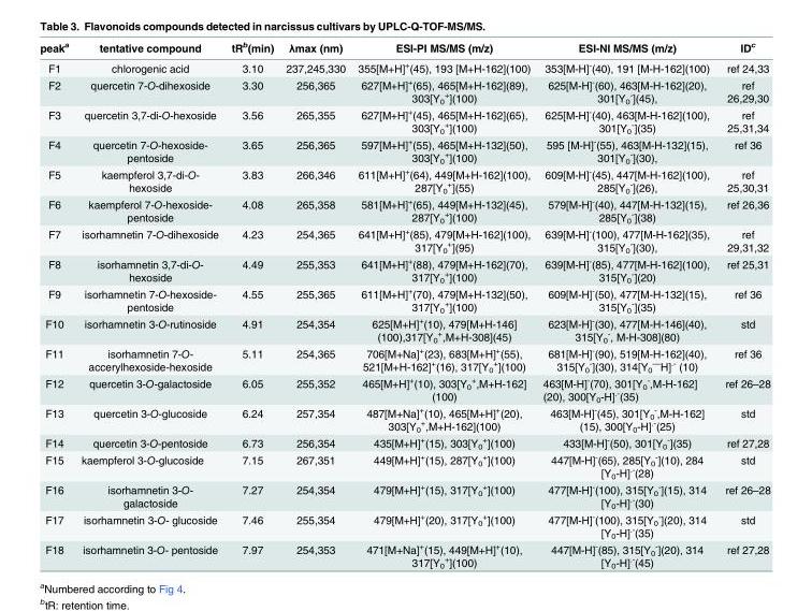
<table><thead><tr><td>peak<sup>a</sup></td><td>tentative compound</td><td>tR<sup>b</sup>(min)</td><td>λmax (nm)</td><td>ESI-PI MS/MS (m/z)</td><td>ESI-NI MS/MS (m/z)</td><td>ID<sup>c</sup></td></tr></thead><tbody><tr><td>F1</td><td>chlorogenic acid</td><td>3.10</td><td>237,245,330</td><td>355[M+H]<sup>+</sup>(45), 193 [M+H-162](100)</td><td>353[M-H]<sup>-</sup>(40), 191 [M-H-162](100)</td><td>ref 24,33</td></tr><tr><td>F2</td><td>quercetin 7-O-dihexoside</td><td>3.30</td><td>256,365</td><td>627[M+H]<sup>+</sup>(65), 465[M+H-162](89), 303[Y<sub>0</sub> <sup>+</sup>](100)</td><td>625[M-H]<sup>-</sup>(60), 463[M-H-162](20), 301[Y<sub>0</sub> <sup>-</sup>](45),</td><td>ref 26,29,30</td></tr><tr><td>F3</td><td>quercetin 3,7-di-O-hexoside</td><td>3.56</td><td>265,355</td><td>627[M+H]<sup>+</sup>(45), 465[M+H-162](65), 303[Y<sub>0</sub> <sup>+</sup>](100)</td><td>625[M-H]<sup>-</sup>(40), 463[M-H-162](100), 301[Y<sub>0</sub> <sup>-</sup>](35)</td><td>ref 25,31,34</td></tr><tr><td>F4</td><td>quercetin 7-O-hexoside- pentoside</td><td>3.65</td><td>256,365</td><td>597[M+H]<sup>+</sup>(55), 465[M+H-132](50), 303[Y<sub>0</sub> <sup>+</sup>](100)</td><td>595 [M-H]<sup>-</sup>(55), 463[M-H-132](15), 301[Y<sub>0</sub> <sup>-</sup>](30),</td><td>ref 36</td></tr><tr><td>F5</td><td>kaempferol 3,7-di-O- hexoside</td><td>3.83</td><td>266,346</td><td>611[M+H]<sup>+</sup>(64), 449[M+H-162](100), 287[Y<sub>0</sub> <sup>+</sup>](55)</td><td>609[M-H]<sup>-</sup>(45), 447[M-H-162](100), 285[Y<sub>0</sub> <sup>-</sup>](26),</td><td>ref 25,30,31</td></tr><tr><td>F6</td><td>kaempferol 7-O-hexoside- pentoside</td><td>4.08</td><td>265,358</td><td>581[M+H]<sup>+</sup>(65), 449[M+H-132](45), 287[Y<sub>0</sub> <sup>+</sup>](100)</td><td>579[M-H]<sup>-</sup>(40), 447[M-H-132](15), 285[Y<sub>0</sub> <sup>-</sup>](38)</td><td>ref 26,36</td></tr><tr><td>F7</td><td>isorhamnetin 7-O-dihexoside</td><td>4.23</td><td>254,365</td><td>641[M+H]<sup>+</sup>(85), 479[M+H-162](100), 317[Y<sub>0</sub> <sup>+</sup>](95)</td><td>639[M-H]<sup>-</sup>(100), 477[M-H-162](35), 315[Y<sub>0</sub> <sup>-</sup>](30),</td><td>ref 29,31,32</td></tr><tr><td>F8</td><td>isorhamnetin 3,7-di-O- hexoside</td><td>4.49</td><td>255,353</td><td>641[M+H]<sup>+</sup>(88), 479[M+H-162](70), 317[Y<sub>0</sub> <sup>+</sup>](100)</td><td>639[M-H]<sup>-</sup>(85), 477[M-H-162](100), 315[Y<sub>0</sub> <sup>-</sup>](20)</td><td>ref 25,31</td></tr><tr><td>F9</td><td>isorhamnetin 7-O-hexoside- pentoside</td><td>4.55</td><td>255,365</td><td>611[M+H]<sup>+</sup>(70), 479[M+H-132](50), 317[Y<sub>0</sub> <sup>+</sup>](100)</td><td>609[M-H]<sup>-</sup>(50), 477[M-H-132](15), 315[Y<sub>0</sub> <sup>-</sup>](35)</td><td>ref 36</td></tr><tr><td>F10</td><td>isorhamnetin 3-O-rutinoside</td><td>4.91</td><td>254,354</td><td>625[M+H]<sup>+</sup>(10), 479[M+H-146] (100),317[Y<sub>0</sub> <sup>+</sup>,M+H-308](45)</td><td>623[M-H]<sup>-</sup>(30), 477[M-H-146](40), 315[Y<sub>0</sub> <sup>-</sup>, M-H-308](80)</td><td>std</td></tr><tr><td>F11</td><td>isorhamnetin 7-O- accerylhexoside-hexoside</td><td>5.11</td><td>254,365</td><td>706[M+Na]<sup>+</sup>(23), 683[M+H]<sup>+</sup>(55), 521[M+H-162]<sup>+</sup>(16), 317[Y<sub>0</sub> <sup>+</sup>](100)</td><td>681[M-H]<sup>-</sup>(90), 519[M-H-162](40), 315[Y<sub>0</sub> <sup>-</sup>](30), 314[Y<sub>0</sub> <sup>—</sup>H]<sup>.-</sup> (10)</td><td>ref 36</td></tr><tr><td>F12</td><td>quercetin 3-O-galactoside</td><td>6.05</td><td>255,352</td><td>465[M+H]<sup>+</sup>(10), 303[Y<sub>0</sub> <sup>+</sup>,M+H-162] (100)</td><td>463[M-H]<sup>-</sup>(70), 301[Y<sub>0</sub> <sup>-</sup>,M-H-162] (20), 300[Y<sub>0</sub>-H]<sup>.-</sup>(35)</td><td>ref 26–28</td></tr><tr><td>F13</td><td>quercetin 3-O-glucoside</td><td>6.24</td><td>257,354</td><td>487[M+Na]<sup>+</sup>(10), 465[M+H]<sup>+</sup>(20), 303[Y<sub>0</sub> <sup>+</sup>,M+H-162](100)</td><td>463[M-H]<sup>-</sup>(45), 301[Y<sub>0</sub> <sup>-</sup>,M-H-162] (15), 300[Y<sub>0</sub>-H]<sup>.-</sup>(25)</td><td>std</td></tr><tr><td>F14</td><td>quercetin 3-O-pentoside</td><td>6.73</td><td>256,354</td><td>435[M+H]<sup>+</sup>(15), 303[Y<sub>0</sub> <sup>+</sup>](100)</td><td>433[M-H]<sup>-</sup>(50), 301[Y<sub>0</sub> <sup>-</sup>](35)</td><td>ref 27,28</td></tr><tr><td>F15</td><td>kaempferol 3-O-glucoside</td><td>7.15</td><td>267,351</td><td>449[M+H]<sup>+</sup>(15), 287[Y<sub>0</sub> <sup>+</sup>](100)</td><td>447[M-H]<sup>-</sup>(65), 285[Y<sub>0</sub> <sup>-</sup>](10), 284 [Y<sub>0</sub>-H]<sup>.-</sup>(28)</td><td>std</td></tr><tr><td>F16</td><td>isorhamnetin 3-O- galactoside</td><td>7.27</td><td>254,354</td><td>479[M+H]<sup>+</sup>(15), 317[Y<sub>0</sub> <sup>+</sup>](100)</td><td>477[M-H]<sup>-</sup>(100), 315[Y<sub>0</sub> <sup>-</sup>](15), 314 [Y<sub>0</sub>-H]<sup>.-</sup>(30)</td><td>ref 26–28</td></tr><tr><td>F17</td><td>isorhamnetin 3-O- glucoside</td><td>7.46</td><td>255,354</td><td>479[M+H]<sup>+</sup>(20), 317[Y<sub>0</sub> <sup>+</sup>](100)</td><td>477[M-H]<sup>-</sup>(100), 315[Y<sub>0</sub> <sup>-</sup>](20), 314 [Y<sub>0</sub>-H]<sup>.-</sup>(35)</td><td>std</td></tr><tr><td>F18</td><td>isorhamnetin 3-O- pentoside</td><td>7.97</td><td>254,353</td><td>471[M+Na]<sup>+</sup>(15), 449[M+H]<sup>+</sup>(10), 317[Y<sub>0</sub> <sup>+</sup>](100)</td><td>447[M-H]<sup>-</sup>(85), 315[Y<sub>0</sub> <sup>-</sup>](20), 314 [Y<sub>0</sub>-H]<sup>.-</sup>(45)</td><td>ref 27,28</td></tr></tbody></table>